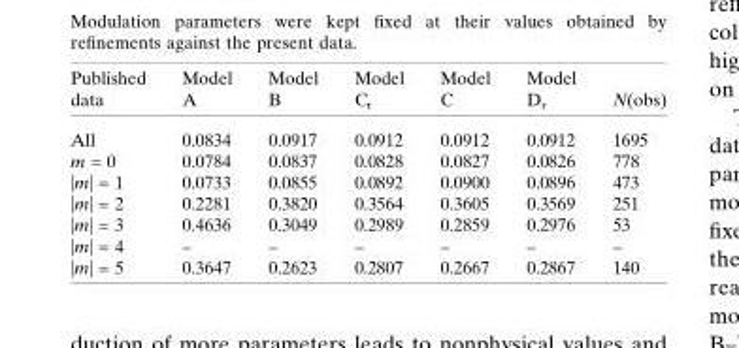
<table><thead><tr><td>Published data</td><td>Model A</td><td>Model B</td><td>Model C<sub>r</sub></td><td>Model C</td><td>Model D<sub>r</sub></td><td>N(obs)</td></tr></thead><tbody><tr><td>All</td><td>0.0834</td><td>0.0917</td><td>0.0912</td><td>0.0912</td><td>0.0912</td><td>1695</td></tr><tr><td>m = 0</td><td>0.0784</td><td>0.0837</td><td>0.0828</td><td>0.0827</td><td>0.0826</td><td>778</td></tr><tr><td>|m| = 1</td><td>0.0733</td><td>0.0855</td><td>0.0892</td><td>0.0900</td><td>0.0896</td><td>473</td></tr><tr><td>|m| = 2</td><td>0.2281</td><td>0.3820</td><td>0.3564</td><td>0.3605</td><td>0.3569</td><td>251</td></tr><tr><td>|m| = 3</td><td>0.4636</td><td>0.3049</td><td>0.2989</td><td>0.2859</td><td>0.2976</td><td>53</td></tr><tr><td colspan="7">|m| = 4 – – – – – –</td></tr><tr><td>|m| = 5</td><td>0.3647</td><td>0.2623</td><td>0.2807</td><td>0.2667</td><td>0.2867</td><td>140</td></tr></tbody></table>